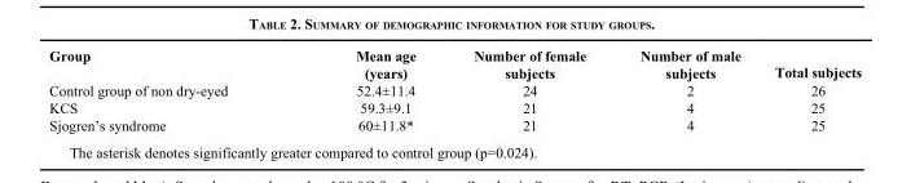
<table><thead><tr><td>Group</td><td>Mean age (years)</td><td>Number of female subjects</td><td>Number of male subjects</td><td>Total subjects</td></tr></thead><tbody><tr><td>Control group of non dry-eyed</td><td>52.4±11.4</td><td>24</td><td>2</td><td>26</td></tr><tr><td>KCS</td><td>59.3±9.1</td><td>21</td><td>4</td><td>25</td></tr><tr><td>Sjogren’s syndrome</td><td>60±11.8*</td><td>21</td><td>4</td><td>25</td></tr></tbody></table>